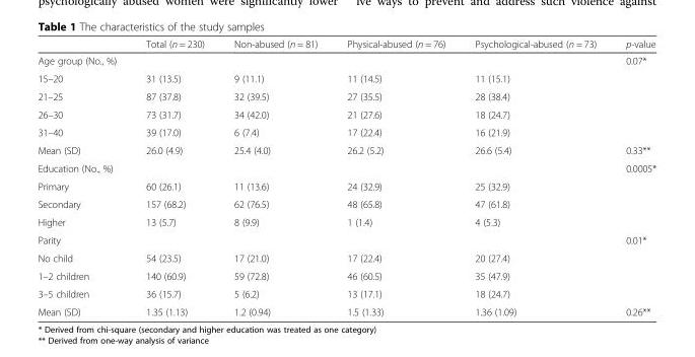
<table><thead><tr><td></td><td>Total (n = 230)</td><td>Non-abused (n = 81)</td><td>Physical-abused (n = 76)</td><td>Psychological-abused (n = 73)</td><td>p-value</td></tr></thead><tbody><tr><td>Age group (No., %)</td><td></td><td></td><td></td><td></td><td>0.07*</td></tr><tr><td>15–20</td><td>31 (13.5)</td><td>9 (11.1)</td><td>11 (14.5)</td><td>11 (15.1)</td><td></td></tr><tr><td>21–25</td><td>87 (37.8)</td><td>32 (39.5)</td><td>27 (35.5)</td><td>28 (38.4)</td><td></td></tr><tr><td>26–30</td><td>73 (31.7)</td><td>34 (42.0)</td><td>21 (27.6)</td><td>18 (24.7)</td><td></td></tr><tr><td>31–40</td><td>39 (17.0)</td><td>6 (7.4)</td><td>17 (22.4)</td><td>16 (21.9)</td><td></td></tr><tr><td>Mean (SD)</td><td>26.0 (4.9)</td><td>25.4 (4.0)</td><td>26.2 (5.2)</td><td>26.6 (5.4)</td><td>0.33**</td></tr><tr><td>Education (No., %)</td><td></td><td></td><td></td><td></td><td>0.0005*</td></tr><tr><td>Primary</td><td>60 (26.1)</td><td>11 (13.6)</td><td>24 (32.9)</td><td>25 (32.9)</td><td></td></tr><tr><td>Secondary</td><td>157 (68.2)</td><td>62 (76.5)</td><td>48 (65.8)</td><td>47 (61.8)</td><td></td></tr><tr><td>Higher</td><td>13 (5.7)</td><td>8 (9.9)</td><td>1 (1.4)</td><td>4 (5.3)</td><td></td></tr><tr><td>Parity</td><td></td><td></td><td></td><td></td><td>0.01*</td></tr><tr><td>No child</td><td>54 (23.5)</td><td>17 (21.0)</td><td>17 (22.4)</td><td>20 (27.4)</td><td></td></tr><tr><td>1–2 children</td><td>140 (60.9)</td><td>59 (72.8)</td><td>46 (60.5)</td><td>35 (47.9)</td><td></td></tr><tr><td>3–5 children</td><td>36 (15.7)</td><td>5 (6.2)</td><td>13 (17.1)</td><td>18 (24.7)</td><td></td></tr><tr><td>Mean (SD)</td><td>1.35 (1.13)</td><td>1.2 (0.94)</td><td>1.5 (1.33)</td><td>1.36 (1.09)</td><td>0.26**</td></tr></tbody></table>